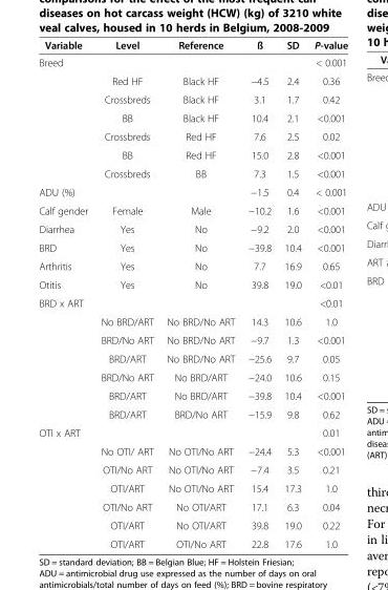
<table><thead><tr><td>Variable</td><td>Level</td><td>Reference</td><td>ß</td><td>SD</td><td>P-value</td></tr></thead><tbody><tr><td rowspan="7">Breed</td><td></td><td></td><td></td><td></td><td>&lt; 0.001</td></tr><tr><td>Red HF</td><td>Black HF</td><td>−4.5</td><td>2.4</td><td>0.36</td></tr><tr><td>Crossbreds</td><td>Black HF</td><td>3.1</td><td>1.7</td><td>0.42</td></tr><tr><td>BB</td><td>Black HF</td><td>10.4</td><td>2.1</td><td>&lt;0.001</td></tr><tr><td>Crossbreds</td><td>Red HF</td><td>7.6</td><td>2.5</td><td>0.02</td></tr><tr><td>BB</td><td>Red HF</td><td>15.0</td><td>2.8</td><td>&lt;0.001</td></tr><tr><td>Crossbreds</td><td>BB</td><td>7.3</td><td>1.5</td><td>&lt;0.001</td></tr><tr><td>ADU (%)</td><td></td><td></td><td>−1.5</td><td>0.4</td><td>&lt; 0.001</td></tr><tr><td>Calf gender</td><td>Female</td><td>Male</td><td>−10.2</td><td>1.6</td><td>&lt;0.001</td></tr><tr><td>Diarrhea</td><td>Yes</td><td>No</td><td>−9.2</td><td>2.0</td><td>&lt;0.001</td></tr><tr><td>BRD</td><td>Yes</td><td>No</td><td>−39.8</td><td>10.4</td><td>&lt;0.001</td></tr><tr><td>Arthritis</td><td>Yes</td><td>No</td><td>7.7</td><td>16.9</td><td>0.65</td></tr><tr><td>Otitis</td><td>Yes</td><td>No</td><td>39.8</td><td>19.0</td><td>&lt;0.01</td></tr><tr><td rowspan="7">BRD x ART</td><td></td><td></td><td></td><td></td><td>&lt;0.01</td></tr><tr><td>No BRD/ART</td><td>No BRD/No ART</td><td>14.3</td><td>10.6</td><td>1.0</td></tr><tr><td>BRD/No ART</td><td>No BRD/No ART</td><td>−9.7</td><td>1.3</td><td>&lt;0.001</td></tr><tr><td>BRD/ART</td><td>No BRD/No ART</td><td>−25.6</td><td>9.7</td><td>0.05</td></tr><tr><td>BRD/No ART</td><td>No BRD/ART</td><td>−24.0</td><td>10.6</td><td>0.15</td></tr><tr><td>BRD/ART</td><td>No BRD/ART</td><td>−39.8</td><td>10.4</td><td>&lt;0.001</td></tr><tr><td>BRD/ART</td><td>BRD/No ART</td><td>−15.9</td><td>9.8</td><td>0.62</td></tr><tr><td rowspan="7">OTI x ART</td><td></td><td></td><td></td><td></td><td>0.01</td></tr><tr><td>No OTI/ ART</td><td>No OTI/No ART</td><td>−24.4</td><td>5.3</td><td>&lt;0.001</td></tr><tr><td>OTI/No ART</td><td>No OTI/No ART</td><td>−7.4</td><td>3.5</td><td>0.21</td></tr><tr><td>OTI/ART</td><td>No OTI/No ART</td><td>15.4</td><td>17.3</td><td>1.0</td></tr><tr><td>OTI/No ART</td><td>No OTI/ART</td><td>17.1</td><td>6.3</td><td>0.04</td></tr><tr><td>OTI/ART</td><td>No OTI/ART</td><td>39.8</td><td>19.0</td><td>0.22</td></tr><tr><td>OTI/ART</td><td>OTI/No ART</td><td>22.8</td><td>17.6</td><td>1.0</td></tr></tbody></table>